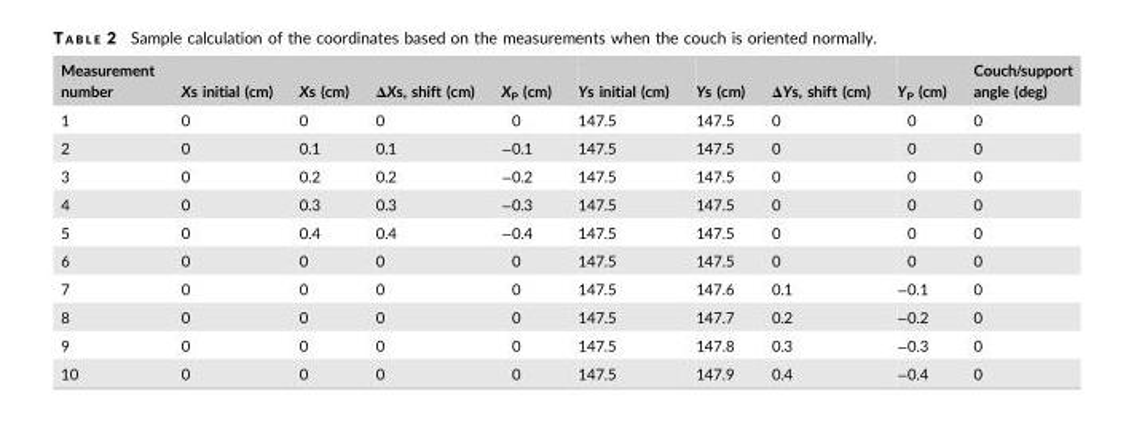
<table><thead><tr><td>Measurement number</td><td>Xs initial (cm)</td><td>Xs (cm)</td><td>ΔXs, shift (cm)</td><td>X<sub>P</sub> (cm)</td><td>Ys initial (cm)</td><td>Ys (cm)</td><td>ΔYs, shift (cm)</td><td>Y<sub>P</sub> (cm)</td><td>Couch/support angle (deg)</td></tr></thead><tbody><tr><td>1</td><td>0</td><td>0</td><td>0</td><td>0</td><td>147.5</td><td>147.5</td><td>0</td><td>0</td><td>0</td></tr><tr><td>2</td><td>0</td><td>0.1</td><td>0.1</td><td>−0.1</td><td>147.5</td><td>147.5</td><td>0</td><td>0</td><td>0</td></tr><tr><td>3</td><td>0</td><td>0.2</td><td>0.2</td><td>−0.2</td><td>147.5</td><td>147.5</td><td>0</td><td>0</td><td>0</td></tr><tr><td>4</td><td>0</td><td>0.3</td><td>0.3</td><td>−0.3</td><td>147.5</td><td>147.5</td><td>0</td><td>0</td><td>0</td></tr><tr><td>5</td><td>0</td><td>0.4</td><td>0.4</td><td>−0.4</td><td>147.5</td><td>147.5</td><td>0</td><td>0</td><td>0</td></tr><tr><td>6</td><td>0</td><td>0</td><td>0</td><td>0</td><td>147.5</td><td>147.5</td><td>0</td><td>0</td><td>0</td></tr><tr><td>7</td><td>0</td><td>0</td><td>0</td><td>0</td><td>147.5</td><td>147.6</td><td>0.1</td><td>−0.1</td><td>0</td></tr><tr><td>8</td><td>0</td><td>0</td><td>0</td><td>0</td><td>147.5</td><td>147.7</td><td>0.2</td><td>−0.2</td><td>0</td></tr><tr><td>9</td><td>0</td><td>0</td><td>0</td><td>0</td><td>147.5</td><td>147.8</td><td>0.3</td><td>−0.3</td><td>0</td></tr><tr><td>10</td><td>0</td><td>0</td><td>0</td><td>0</td><td>147.5</td><td>147.9</td><td>0.4</td><td>−0.4</td><td>0</td></tr></tbody></table>